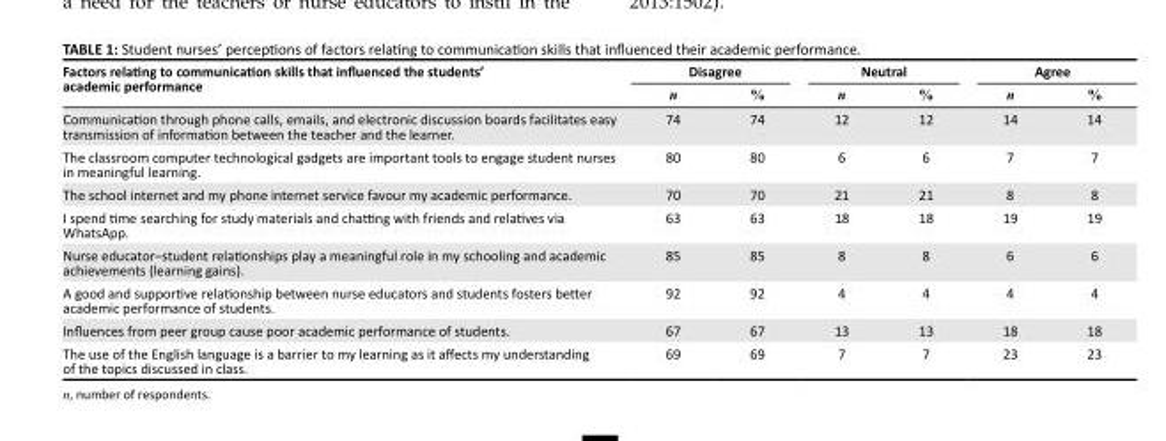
<table><thead><tr><td rowspan="2">Factors relating to communication skills that influenced the students’ academic performance</td><td colspan="2">Disagree</td><td colspan="2">Neutral</td><td colspan="2">Agree</td></tr><tr><td>n</td><td>%</td><td>n</td><td>%</td><td>n</td><td>%</td></tr></thead><tbody><tr><td>Communication through phone calls, emails, and electronic discussion boards facilitates easy transmission of information between the teacher and the learner.</td><td>74</td><td>74</td><td>12</td><td>12</td><td>14</td><td>14</td></tr><tr><td>The classroom computer technological gadgets are important tools to engage student nurses in meaningful learning.</td><td>80</td><td>80</td><td>6</td><td>6</td><td>7</td><td>7</td></tr><tr><td>The school internet and my phone internet service favour my academic performance.</td><td>70</td><td>70</td><td>21</td><td>21</td><td>8</td><td>8</td></tr><tr><td>I spend time searching for study materials and chatting with friends and relatives via WhatsApp.</td><td>63</td><td>63</td><td>18</td><td>18</td><td>19</td><td>19</td></tr><tr><td>Nurse educator–student relationships play a meaningful role in my schooling and academic achievements (learning gains).</td><td>85</td><td>85</td><td>8</td><td>8</td><td>6</td><td>6</td></tr><tr><td>A good and supportive relationship between nurse educators and students fosters better academic performance of students.</td><td>92</td><td>92</td><td>4</td><td>4</td><td>4</td><td>4</td></tr><tr><td>Influences from peer group cause poor academic performance of students.</td><td>67</td><td>67</td><td>13</td><td>13</td><td>18</td><td>18</td></tr><tr><td>The use of the English language is a barrier to my learning as it affects my understanding of the topics discussed in class.</td><td>69</td><td>69</td><td>7</td><td>7</td><td>23</td><td>23</td></tr></tbody></table>